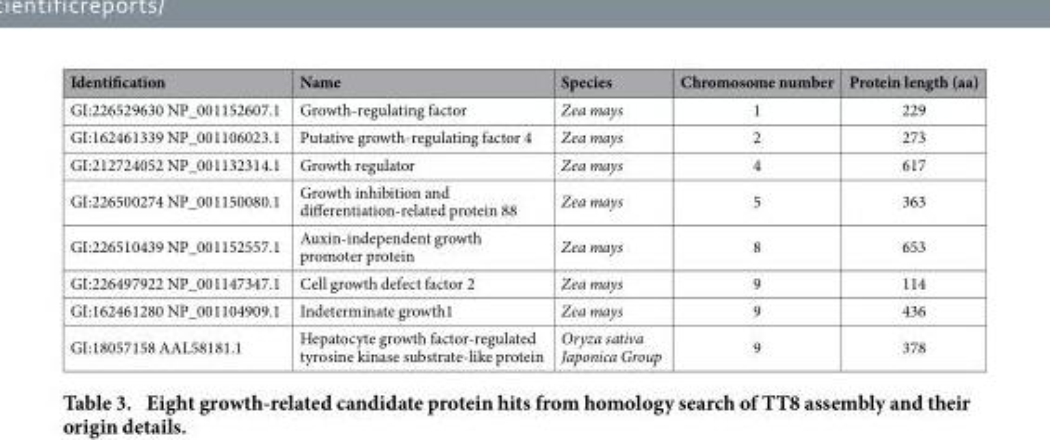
<table><thead><tr><td>Identification</td><td>Name</td><td>Species</td><td>Chromosome number</td><td>Protein length (aa)</td></tr></thead><tbody><tr><td>GI:226529630 NP_001152607.1</td><td>Growth-regulating factor</td><td>Zea mays</td><td>1</td><td>229</td></tr><tr><td>GI:162461339 NP_001106023.1</td><td>Putative growth-regulating factor 4</td><td>Zea mays</td><td>2</td><td>273</td></tr><tr><td>GI:212724052 NP_001132314.1</td><td>Growth regulator</td><td>Zea mays</td><td>4</td><td>617</td></tr><tr><td>GI:226500274 NP_001150080.1</td><td>Growth inhibition and differentiation-related protein 88</td><td>Zea mays</td><td>5</td><td>363</td></tr><tr><td>GI:226510439 NP_001152557.1</td><td>Auxin-independent growth promoter protein</td><td>Zea mays</td><td>8</td><td>653</td></tr><tr><td>GI:226497922 NP_001147347.1</td><td>Cell growth defect factor 2</td><td>Zea mays</td><td>9</td><td>114</td></tr><tr><td>GI:162461280 NP_001104909.1</td><td>Indeterminate growth1</td><td>Zea mays</td><td>9</td><td>436</td></tr><tr><td>GI:18057158 AAL58181.1</td><td>Hepatocyte growth factor-regulated tyrosine kinase substrate-like protein</td><td>Oryza sativa Japonica Group</td><td>9</td><td>378</td></tr></tbody></table>